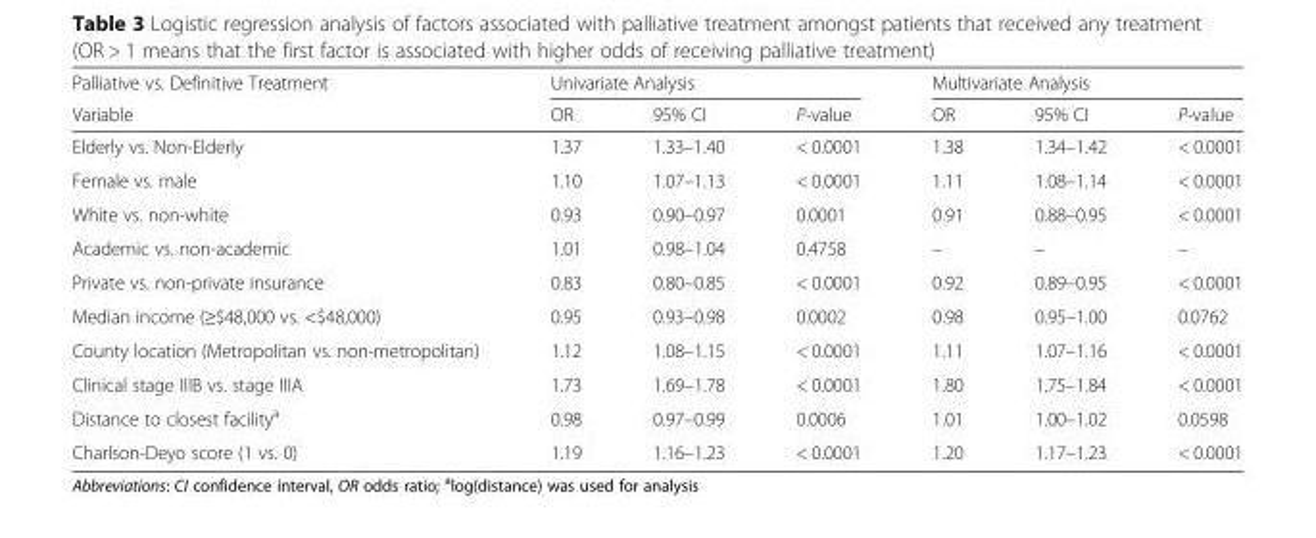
<table><thead><tr><td rowspan="2">Palliative vs. Definitive Treatment Variable</td><td colspan="3">Univariate Analysis</td><td colspan="3">Multivariate Analysis</td></tr><tr><td>OR</td><td>95% CI</td><td>P-value</td><td>OR</td><td>95% CI</td><td>P-value</td></tr></thead><tbody><tr><td>Elderly vs. Non-Elderly</td><td>1.37</td><td>1.33–1.40</td><td>&lt; 0.0001</td><td>1.38</td><td>1.34–1.42</td><td>&lt; 0.0001</td></tr><tr><td>Female vs. male</td><td>1.10</td><td>1.07–1.13</td><td>&lt; 0.0001</td><td>1.11</td><td>1.08–1.14</td><td>&lt; 0.0001</td></tr><tr><td>White vs. non-white</td><td>0.93</td><td>0.90–0.97</td><td>0.0001</td><td>0.91</td><td>0.88–0.95</td><td>&lt; 0.0001</td></tr><tr><td>Academic vs. non-academic</td><td>1.01</td><td>0.98–1.04</td><td>0.4758</td><td>–</td><td>–</td><td>–</td></tr><tr><td>Private vs. non-private insurance</td><td>0.83</td><td>0.80–0.85</td><td>&lt; 0.0001</td><td>0.92</td><td>0.89–0.95</td><td>&lt; 0.0001</td></tr><tr><td>Median income (≥$48,000 vs. &lt;$48,000)</td><td>0.95</td><td>0.93–0.98</td><td>0.0002</td><td>0.98</td><td>0.95–1.00</td><td>0.0762</td></tr><tr><td>County location (Metropolitan vs. non-metropolitan)</td><td>1.12</td><td>1.08–1.15</td><td>&lt; 0.0001</td><td>1.11</td><td>1.07–1.16</td><td>&lt; 0.0001</td></tr><tr><td>Clinical stage IIIB vs. stage IIIA</td><td>1.73</td><td>1.69–1.78</td><td>&lt; 0.0001</td><td>1.80</td><td>1.75–1.84</td><td>&lt; 0.0001</td></tr><tr><td>Distance to closest facility<sup>a</sup></td><td>0.98</td><td>0.97–0.99</td><td>0.0006</td><td>1.01</td><td>1.00–1.02</td><td>0.0598</td></tr><tr><td>Charlson-Deyo score (1 vs. 0)</td><td>1.19</td><td>1.16–1.23</td><td>&lt; 0.0001</td><td>1.20</td><td>1.17–1.23</td><td>&lt; 0.0001</td></tr></tbody></table>